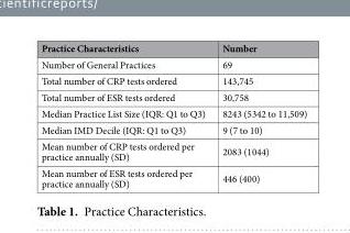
<table><thead><tr><td>Practice Characteristics</td><td>Number</td></tr></thead><tbody><tr><td>Number of General Practices</td><td>69</td></tr><tr><td>Total number of CRP tests ordered</td><td>143,745</td></tr><tr><td>Total number of ESR tests ordered</td><td>30,758</td></tr><tr><td>Median Practice List Size (IQR: Q1 to Q3)</td><td>8243 (5342 to 11,509)</td></tr><tr><td>Median IMD Decile (IQR: Q1 to Q3)</td><td>9 (7 to 10)</td></tr><tr><td>Mean number of CRP tests ordered per practice annually (SD)</td><td>2083 (1044)</td></tr><tr><td>Mean number of ESR tests ordered per practice annually (SD)</td><td>446 (400)</td></tr></tbody></table>